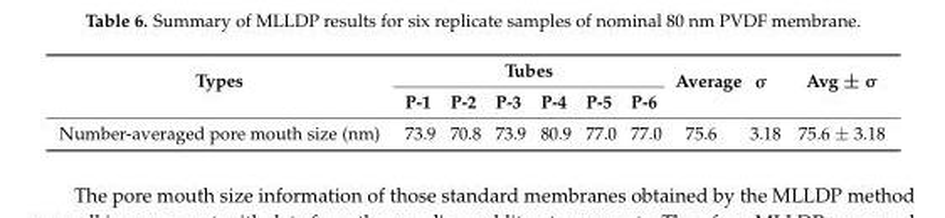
<table><thead><tr><td rowspan="2">Types</td><td colspan="6">Tubes</td><td rowspan="2">Average</td><td rowspan="2">σ</td><td rowspan="2">Avg ± σ</td></tr><tr><td>P-1</td><td>P-2</td><td>P-3</td><td>P-4</td><td>P-5</td><td>P-6</td></tr></thead><tbody><tr><td>Number-averaged pore mouth size (nm)</td><td>73.9</td><td>70.8</td><td>73.9</td><td>80.9</td><td>77.0</td><td>77.0</td><td>75.6</td><td>3.18</td><td>75.6 ± 3.18</td></tr></tbody></table>